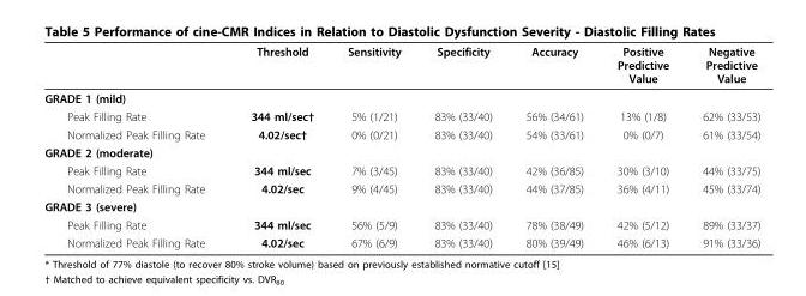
<table><thead><tr><td></td><td>Threshold</td><td>Sensitivity</td><td>Specificity</td><td>Accuracy</td><td>Positive Predictive Value</td><td>Negative Predictive Value</td></tr></thead><tbody><tr><td colspan="7">GRADE 1 (mild)</td></tr><tr><td>Peak Filling Rate</td><td>344 ml/sec†</td><td>5% (1/21)</td><td>83% (33/40)</td><td>56% (34/61)</td><td>13% (1/8)</td><td>62% (33/53)</td></tr><tr><td>Normalized Peak Filling Rate</td><td>4.02/sec†</td><td>0% (0/21)</td><td>83% (33/40)</td><td>54% (33/61)</td><td>0% (0/7)</td><td>61% (33/54)</td></tr><tr><td colspan="7">GRADE 2 (moderate)</td></tr><tr><td>Peak Filling Rate</td><td>344 ml/sec</td><td>7% (3/45)</td><td>83% (33/40)</td><td>42% (36/85)</td><td>30% (3/10)</td><td>44% (33/75)</td></tr><tr><td>Normalized Peak Filling Rate</td><td>4.02/sec</td><td>9% (4/45)</td><td>83% (33/40)</td><td>44% (37/85)</td><td>36% (4/11)</td><td>45% (33/74)</td></tr><tr><td colspan="7">GRADE 3 (severe)</td></tr><tr><td>Peak Filling Rate</td><td>344 ml/sec</td><td>56% (5/9)</td><td>83% (33/40)</td><td>78% (38/49)</td><td>42% (5/12)</td><td>89% (33/37)</td></tr><tr><td>Normalized Peak Filling Rate</td><td>4.02/sec</td><td>67% (6/9)</td><td>83% (33/40)</td><td>80% (39/49)</td><td>46% (6/13)</td><td>91% (33/36)</td></tr></tbody></table>